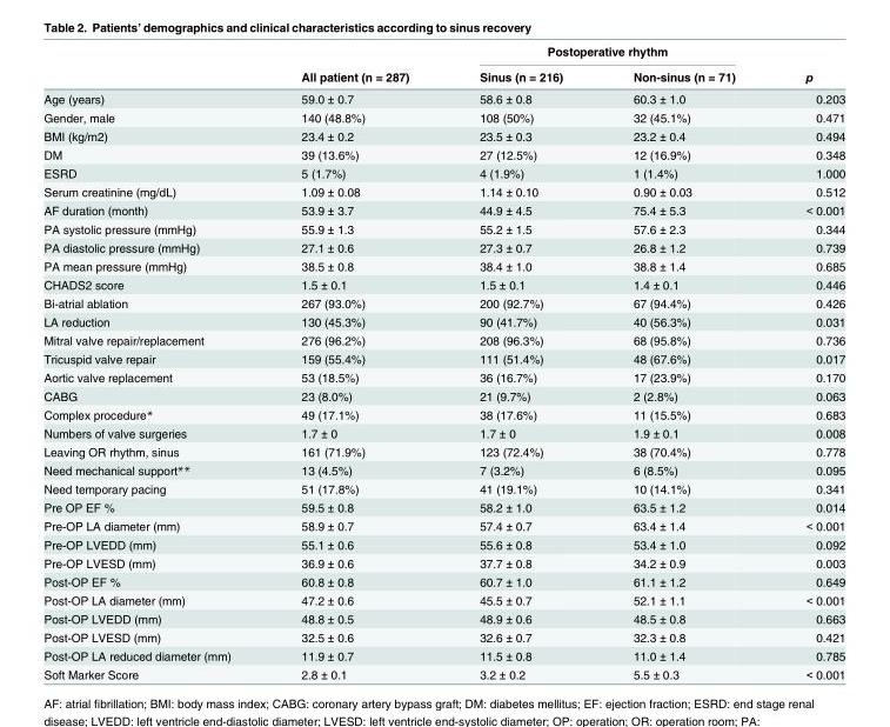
<table><thead><tr><td rowspan="2"></td><td rowspan="2">All patient (n = 287)</td><td colspan="2">Postoperative rhythm</td><td rowspan="2">p</td></tr><tr><td>Sinus (n = 216)</td><td>Non-sinus (n = 71)</td></tr></thead><tbody><tr><td>Age (years)</td><td>59.0 ± 0.7</td><td>58.6 ± 0.8</td><td>60.3 ± 1.0</td><td>0.203</td></tr><tr><td>Gender, male</td><td>140 (48.8%)</td><td>108 (50%)</td><td>32 (45.1%)</td><td>0.471</td></tr><tr><td>BMI (kg/m2)</td><td>23.4 ± 0.2</td><td>23.5 ± 0.3</td><td>23.2 ± 0.4</td><td>0.494</td></tr><tr><td>DM</td><td>39 (13.6%)</td><td>27 (12.5%)</td><td>12 (16.9%)</td><td>0.348</td></tr><tr><td>ESRD</td><td>5 (1.7%)</td><td>4 (1.9%)</td><td>1 (1.4%)</td><td>1.000</td></tr><tr><td>Serum creatinine (mg/dL)</td><td>1.09 ± 0.08</td><td>1.14 ± 0.10</td><td>0.90 ± 0.03</td><td>0.512</td></tr><tr><td>AF duration (month)</td><td>53.9 ± 3.7</td><td>44.9 ± 4.5</td><td>75.4 ± 5.3</td><td>&lt; 0.001</td></tr><tr><td>PA systolic pressure (mmHg)</td><td>55.9 ± 1.3</td><td>55.2 ± 1.5</td><td>57.6 ± 2.3</td><td>0.344</td></tr><tr><td>PA diastolic pressure (mmHg)</td><td>27.1 ± 0.6</td><td>27.3 ± 0.7</td><td>26.8 ± 1.2</td><td>0.739</td></tr><tr><td>PA mean pressure (mmHg)</td><td>38.5 ± 0.8</td><td>38.4 ± 1.0</td><td>38.8 ± 1.4</td><td>0.685</td></tr><tr><td>CHADS2 score</td><td>1.5 ± 0.1</td><td>1.5 ± 0.1</td><td>1.4 ± 0.1</td><td>0.446</td></tr><tr><td>Bi-atrial ablation</td><td>267 (93.0%)</td><td>200 (92.7%)</td><td>67 (94.4%)</td><td>0.426</td></tr><tr><td>LA reduction</td><td>130 (45.3%)</td><td>90 (41.7%)</td><td>40 (56.3%)</td><td>0.031</td></tr><tr><td>Mitral valve repair/replacement</td><td>276 (96.2%)</td><td>208 (96.3%)</td><td>68 (95.8%)</td><td>0.736</td></tr><tr><td>Tricuspid valve repair</td><td>159 (55.4%)</td><td>111 (51.4%)</td><td>48 (67.6%)</td><td>0.017</td></tr><tr><td>Aortic valve replacement</td><td>53 (18.5%)</td><td>36 (16.7%)</td><td>17 (23.9%)</td><td>0.170</td></tr><tr><td>CABG</td><td>23 (8.0%)</td><td>21 (9.7%)</td><td>2 (2.8%)</td><td>0.063</td></tr><tr><td>Complex procedure*</td><td>49 (17.1%)</td><td>38 (17.6%)</td><td>11 (15.5%)</td><td>0.683</td></tr><tr><td>Numbers of valve surgeries</td><td>1.7 ± 0</td><td>1.7 ± 0</td><td>1.9 ± 0.1</td><td>0.008</td></tr><tr><td>Leaving OR rhythm, sinus</td><td>161 (71.9%)</td><td>123 (72.4%)</td><td>38 (70.4%)</td><td>0.778</td></tr><tr><td>Need mechanical support**</td><td>13 (4.5%)</td><td>7 (3.2%)</td><td>6 (8.5%)</td><td>0.095</td></tr><tr><td>Need temporary pacing</td><td>51 (17.8%)</td><td>41 (19.1%)</td><td>10 (14.1%)</td><td>0.341</td></tr><tr><td>Pre OP EF %</td><td>59.5 ± 0.8</td><td>58.2 ± 1.0</td><td>63.5 ± 1.2</td><td>0.014</td></tr><tr><td>Pre-OP LA diameter (mm)</td><td>58.9 ± 0.7</td><td>57.4 ± 0.7</td><td>63.4 ± 1.4</td><td>&lt; 0.001</td></tr><tr><td>Pre-OP LVEDD (mm)</td><td>55.1 ± 0.6</td><td>55.6 ± 0.8</td><td>53.4 ± 1.0</td><td>0.092</td></tr><tr><td>Pre-OP LVESD (mm)</td><td>36.9 ± 0.6</td><td>37.7 ± 0.8</td><td>34.2 ± 0.9</td><td>0.003</td></tr><tr><td>Post-OP EF %</td><td>60.8 ± 0.8</td><td>60.7 ± 1.0</td><td>61.1 ± 1.2</td><td>0.649</td></tr><tr><td>Post-OP LA diameter (mm)</td><td>47.2 ± 0.6</td><td>45.5 ± 0.7</td><td>52.1 ± 1.1</td><td>&lt; 0.001</td></tr><tr><td>Post-OP LVEDD (mm)</td><td>48.8 ± 0.5</td><td>48.9 ± 0.6</td><td>48.5 ± 0.8</td><td>0.663</td></tr><tr><td>Post-OP LVESD (mm)</td><td>32.5 ± 0.6</td><td>32.6 ± 0.7</td><td>32.3 ± 0.8</td><td>0.421</td></tr><tr><td>Post-OP LA reduced diameter (mm)</td><td>11.9 ± 0.7</td><td>11.5 ± 0.8</td><td>11.0 ± 1.4</td><td>0.785</td></tr><tr><td>Soft Marker Score</td><td>2.8 ± 0.1</td><td>3.2 ± 0.2</td><td>5.5 ± 0.3</td><td>&lt; 0.001</td></tr></tbody></table>